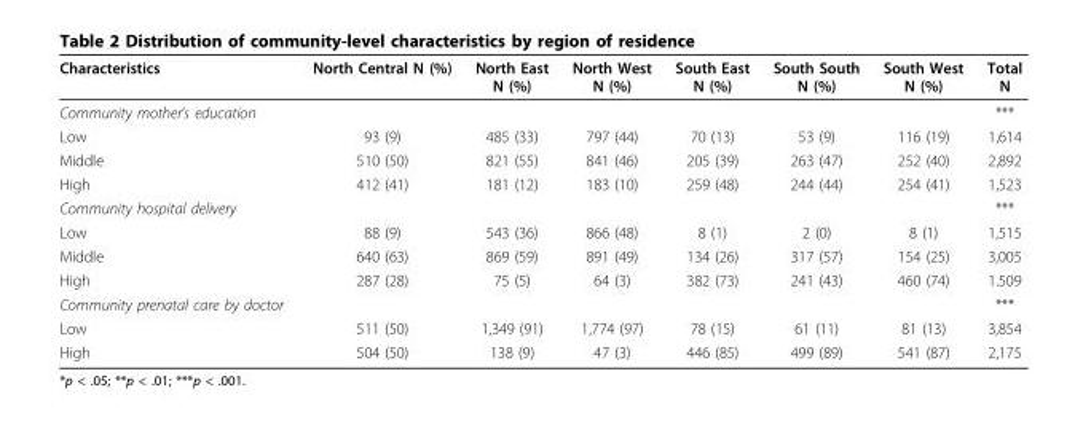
<table><thead><tr><td>Characteristics</td><td>North Central N (%)</td><td>North East N (%)</td><td>North West N (%)</td><td>South East N (%)</td><td>South South N (%)</td><td>South West N (%)</td><td>Total N</td></tr></thead><tbody><tr><td>Community mother’s education</td><td></td><td></td><td></td><td></td><td></td><td></td><td>***</td></tr><tr><td>Low</td><td>93 (9)</td><td>485 (33)</td><td>797 (44)</td><td>70 (13)</td><td>53 (9)</td><td>116 (19)</td><td>1,614</td></tr><tr><td>Middle</td><td>510 (50)</td><td>821 (55)</td><td>841 (46)</td><td>205 (39)</td><td>263 (47)</td><td>252 (40)</td><td>2,892</td></tr><tr><td>High</td><td>412 (41)</td><td>181 (12)</td><td>183 (10)</td><td>259 (48)</td><td>244 (44)</td><td>254 (41)</td><td>1,523</td></tr><tr><td>Community hospital delivery</td><td></td><td></td><td></td><td></td><td></td><td></td><td>***</td></tr><tr><td>Low</td><td>88 (9)</td><td>543 (36)</td><td>866 (48)</td><td>8 (1)</td><td>2 (0)</td><td>8 (1)</td><td>1,515</td></tr><tr><td>Middle</td><td>640 (63)</td><td>869 (59)</td><td>891 (49)</td><td>134 (26)</td><td>317 (57)</td><td>154 (25)</td><td>3,005</td></tr><tr><td>High</td><td>287 (28)</td><td>75 (5)</td><td>64 (3)</td><td>382 (73)</td><td>241 (43)</td><td>460 (74)</td><td>1.509</td></tr><tr><td>Community prenatal care by doctor</td><td></td><td></td><td></td><td></td><td></td><td></td><td>***</td></tr><tr><td>Low</td><td>511 (50)</td><td>1,349 (91)</td><td>1,774 (97)</td><td>78 (15)</td><td>61 (11)</td><td>81 (13)</td><td>3,854</td></tr><tr><td>High</td><td>504 (50)</td><td>138 (9)</td><td>47 (3)</td><td>446 (85)</td><td>499 (89)</td><td>541 (87)</td><td>2,175</td></tr></tbody></table>